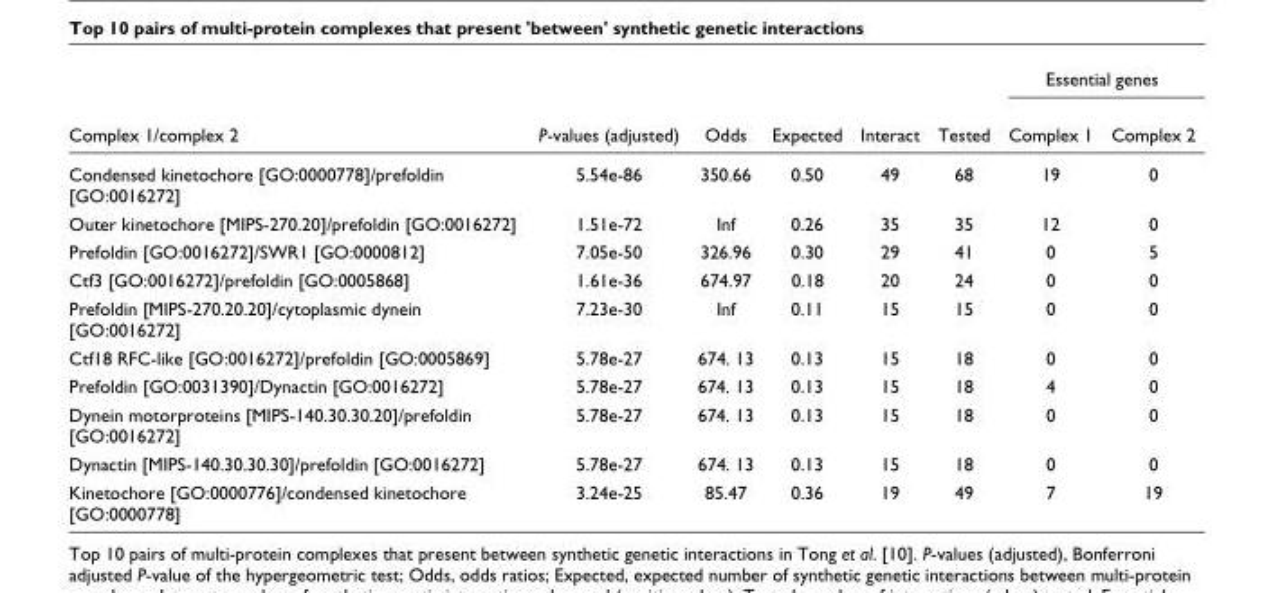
<table><thead><tr><td rowspan="2">Complex 1/complex 2</td><td rowspan="2">P-values (adjusted)</td><td rowspan="2">Odds</td><td rowspan="2">Expected</td><td rowspan="2">Interact</td><td rowspan="2">Tested</td><td colspan="2">Essential genes</td></tr><tr><td>Complex 1</td><td>Complex 2</td></tr></thead><tbody><tr><td>Condensed kinetochore [GO:0000778]/prefoldin [GO:0016272]</td><td>5.54e-86</td><td>350.66</td><td>0.50</td><td>49</td><td>68</td><td>19</td><td>0</td></tr><tr><td>Outer kinetochore [MIPS-270.20]/prefoldin [GO:0016272]</td><td>1.51e-72</td><td>Inf</td><td>0.26</td><td>35</td><td>35</td><td>12</td><td>0</td></tr><tr><td>Prefoldin [GO:0016272]/SWR1 [GO:0000812]</td><td>7.05e-50</td><td>326.96</td><td>0.30</td><td>29</td><td>41</td><td>0</td><td>5</td></tr><tr><td>Ctf3 [GO:0016272]/prefoldin [GO:0005868]</td><td>1.61e-36</td><td>674.97</td><td>0.18</td><td>20</td><td>24</td><td>0</td><td>0</td></tr><tr><td>Prefoldin [MIPS-270.20.20]/cytoplasmic dynein [GO:0016272]</td><td>7.23e-30</td><td>Inf</td><td>0.11</td><td>15</td><td>15</td><td>0</td><td>0</td></tr><tr><td>Ctf18 RFC-like [GO:0016272]/prefoldin [GO:0005869]</td><td>5.78e-27</td><td>674. 13</td><td>0.13</td><td>15</td><td>18</td><td>0</td><td>0</td></tr><tr><td>Prefoldin [GO:0031390]/Dynactin [GO:0016272]</td><td>5.78e-27</td><td>674. 13</td><td>0.13</td><td>15</td><td>18</td><td>4</td><td>0</td></tr><tr><td>Dynein motorproteins [MIPS-140.30.30.20]/prefoldin [GO:0016272]</td><td>5.78e-27</td><td>674. 13</td><td>0.13</td><td>15</td><td>18</td><td>0</td><td>0</td></tr><tr><td>Dynactin [MIPS-140.30.30.30]/prefoldin [GO:0016272]</td><td>5.78e-27</td><td>674. 13</td><td>0.13</td><td>15</td><td>18</td><td>0</td><td>0</td></tr><tr><td>Kinetochore [GO:0000776]/condensed kinetochore [GO:0000778]</td><td>3.24e-25</td><td>85.47</td><td>0.36</td><td>19</td><td>49</td><td>7</td><td>19</td></tr></tbody></table>